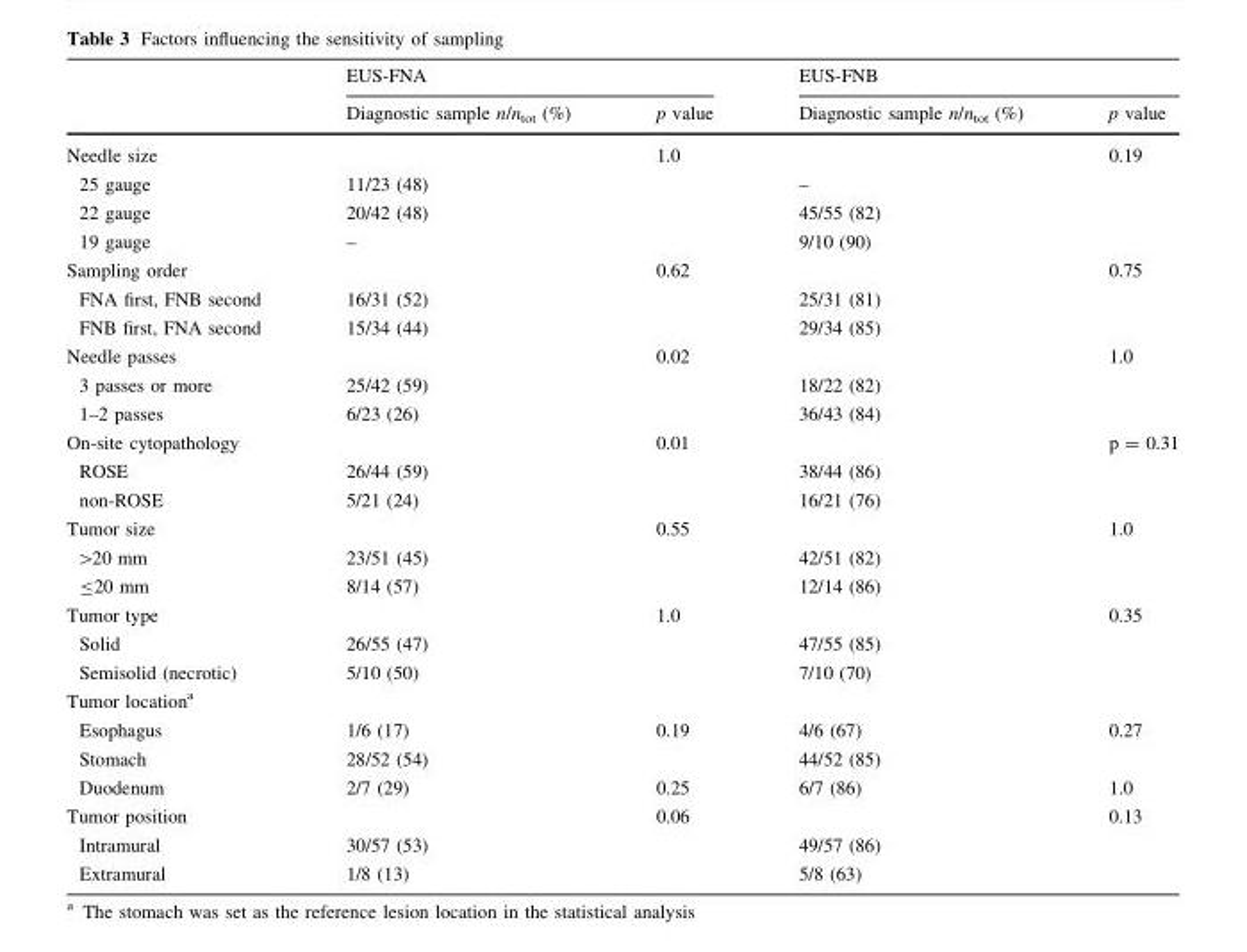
<table><thead><tr><td rowspan="2"></td><td colspan="2">EUS-FNA</td><td colspan="2">EUS-FNB</td></tr><tr><td>Diagnostic sample n/n<sub>tot</sub> (%)</td><td>p value</td><td>Diagnostic sample n/n<sub>tot</sub> (%)</td><td>p value</td></tr></thead><tbody><tr><td>Needle size</td><td></td><td>1.0</td><td></td><td>0.19</td></tr><tr><td>25 gauge</td><td>11/23 (48)</td><td></td><td>–</td><td></td></tr><tr><td>22 gauge</td><td>20/42 (48)</td><td></td><td>45/55 (82)</td><td></td></tr><tr><td>19 gauge</td><td>–</td><td></td><td>9/10 (90)</td><td></td></tr><tr><td>Sampling order</td><td></td><td>0.62</td><td></td><td>0.75</td></tr><tr><td>FNA first, FNB second</td><td>16/31 (52)</td><td></td><td>25/31 (81)</td><td></td></tr><tr><td>FNB first, FNA second</td><td>15/34 (44)</td><td></td><td>29/34 (85)</td><td></td></tr><tr><td>Needle passes</td><td></td><td>0.02</td><td></td><td>1.0</td></tr><tr><td>3 passes or more</td><td>25/42 (59)</td><td></td><td>18/22 (82)</td><td></td></tr><tr><td>1–2 passes</td><td>6/23 (26)</td><td></td><td>36/43 (84)</td><td></td></tr><tr><td>On-site cytopathology</td><td></td><td>0.01</td><td></td><td>p = 0.31</td></tr><tr><td>ROSE</td><td>26/44 (59)</td><td></td><td>38/44 (86)</td><td></td></tr><tr><td>non-ROSE</td><td>5/21 (24)</td><td></td><td>16/21 (76)</td><td></td></tr><tr><td>Tumor size</td><td></td><td>0.55</td><td></td><td>1.0</td></tr><tr><td>&gt;20 mm</td><td>23/51 (45)</td><td></td><td>42/51 (82)</td><td></td></tr><tr><td>≤20 mm</td><td>8/14 (57)</td><td></td><td>12/14 (86)</td><td></td></tr><tr><td>Tumor type</td><td></td><td>1.0</td><td></td><td>0.35</td></tr><tr><td>Solid</td><td>26/55 (47)</td><td></td><td>47/55 (85)</td><td></td></tr><tr><td>Semisolid (necrotic)</td><td>5/10 (50)</td><td></td><td>7/10 (70)</td><td></td></tr><tr><td colspan="5">Tumor location<sup>a</sup></td></tr><tr><td>Esophagus</td><td>1/6 (17)</td><td>0.19</td><td>4/6 (67)</td><td>0.27</td></tr><tr><td>Stomach</td><td>28/52 (54)</td><td></td><td>44/52 (85)</td><td></td></tr><tr><td>Duodenum</td><td>2/7 (29)</td><td>0.25</td><td>6/7 (86)</td><td>1.0</td></tr><tr><td>Tumor position</td><td></td><td>0.06</td><td></td><td>0.13</td></tr><tr><td>Intramural</td><td>30/57 (53)</td><td></td><td>49/57 (86)</td><td></td></tr><tr><td>Extramural</td><td>1/8 (13)</td><td></td><td>5/8 (63)</td><td></td></tr></tbody></table>